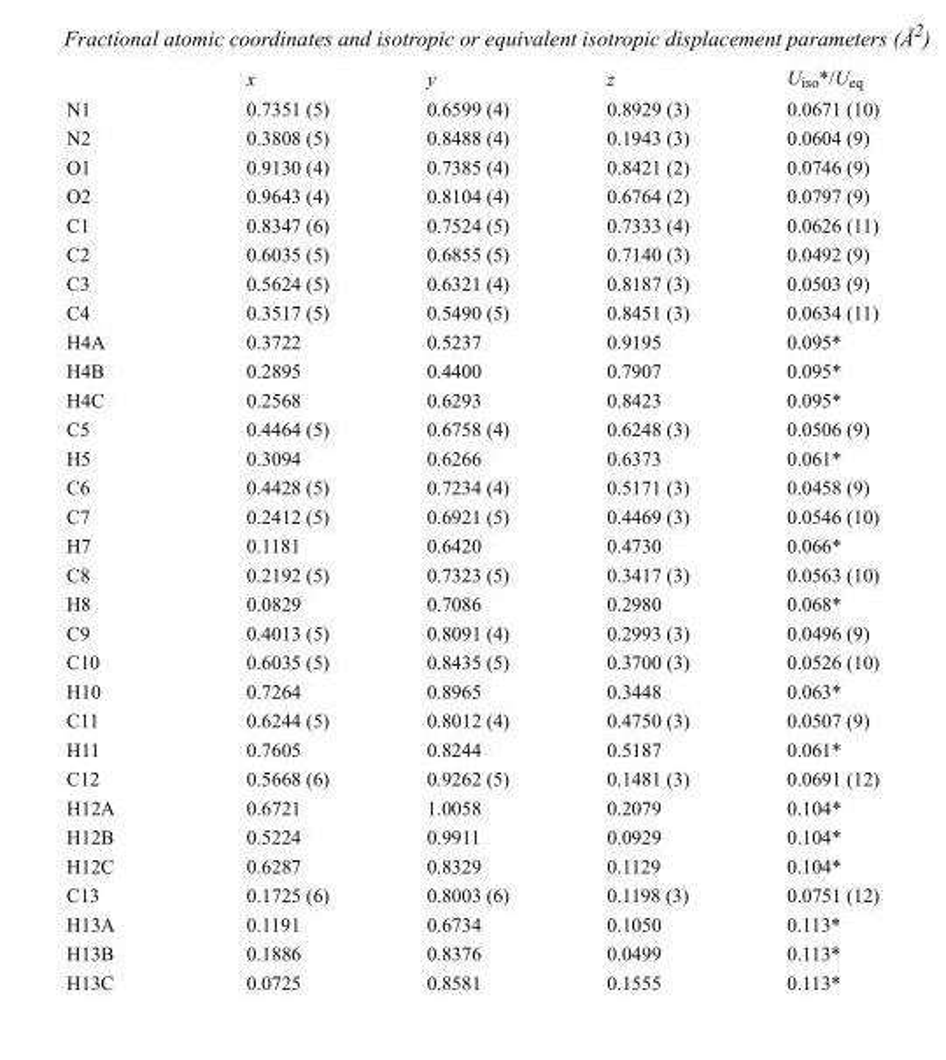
<table><thead><tr><td></td><td>x</td><td>y</td><td>z</td><td>U<sub>iso</sub>*/U<sub>eq</sub></td></tr></thead><tbody><tr><td>N1</td><td>0.7351 (5)</td><td>0.6599 (4)</td><td>0.8929 (3)</td><td>0.0671 (10)</td></tr><tr><td>N2</td><td>0.3808 (5)</td><td>0.8488 (4)</td><td>0.1943 (3)</td><td>0.0604 (9)</td></tr><tr><td>O1</td><td>0.9130 (4)</td><td>0.7385 (4)</td><td>0.8421 (2)</td><td>0.0746 (9)</td></tr><tr><td>O2</td><td>0.9643 (4)</td><td>0.8104 (4)</td><td>0.6764 (2)</td><td>0.0797 (9)</td></tr><tr><td>C1</td><td>0.8347 (6)</td><td>0.7524 (5)</td><td>0.7333 (4)</td><td>0.0626 (11)</td></tr><tr><td>C2</td><td>0.6035 (5)</td><td>0.6855 (5)</td><td>0.7140 (3)</td><td>0.0492 (9)</td></tr><tr><td>C3</td><td>0.5624 (5)</td><td>0.6321 (4)</td><td>0.8187 (3)</td><td>0.0503 (9)</td></tr><tr><td>C4</td><td>0.3517 (5)</td><td>0.5490 (5)</td><td>0.8451 (3)</td><td>0.0634 (11)</td></tr><tr><td>H4A</td><td>0.3722</td><td>0.5237</td><td>0.9195</td><td>0.095*</td></tr><tr><td>H4B</td><td>0.2895</td><td>0.4400</td><td>0.7907</td><td>0.095*</td></tr><tr><td>H4C</td><td>0.2568</td><td>0.6293</td><td>0.8423</td><td>0.095*</td></tr><tr><td>C5</td><td>0.4464 (5)</td><td>0.6758 (4)</td><td>0.6248 (3)</td><td>0.0506 (9)</td></tr><tr><td>H5</td><td>0.3094</td><td>0.6266</td><td>0.6373</td><td>0.061*</td></tr><tr><td>C6</td><td>0.4428 (5)</td><td>0.7234 (4)</td><td>0.5171 (3)</td><td>0.0458 (9)</td></tr><tr><td>C7</td><td>0.2412 (5)</td><td>0.6921 (5)</td><td>0.4469 (3)</td><td>0.0546 (10)</td></tr><tr><td>H7</td><td>0.1181</td><td>0.6420</td><td>0.4730</td><td>0.066*</td></tr><tr><td>C8</td><td>0.2192 (5)</td><td>0.7323 (5)</td><td>0.3417 (3)</td><td>0.0563 (10)</td></tr><tr><td>H8</td><td>0.0829</td><td>0.7086</td><td>0.2980</td><td>0.068*</td></tr><tr><td>C9</td><td>0.4013 (5)</td><td>0.8091 (4)</td><td>0.2993 (3)</td><td>0.0496 (9)</td></tr><tr><td>C10</td><td>0.6035 (5)</td><td>0.8435 (5)</td><td>0.3700 (3)</td><td>0.0526 (10)</td></tr><tr><td>H10</td><td>0.7264</td><td>0.8965</td><td>0.3448</td><td>0.063*</td></tr><tr><td>C11</td><td>0.6244 (5)</td><td>0.8012 (4)</td><td>0.4750 (3)</td><td>0.0507 (9)</td></tr><tr><td>H11</td><td>0.7605</td><td>0.8244</td><td>0.5187</td><td>0.061*</td></tr><tr><td>C12</td><td>0.5668 (6)</td><td>0.9262 (5)</td><td>0.1481 (3)</td><td>0.0691 (12)</td></tr><tr><td>H12A</td><td>0.6721</td><td>1.0058</td><td>0.2079</td><td>0.104*</td></tr><tr><td>H12B</td><td>0.5224</td><td>0.9911</td><td>0.0929</td><td>0.104*</td></tr><tr><td>H12C</td><td>0.6287</td><td>0.8329</td><td>0.1129</td><td>0.104*</td></tr><tr><td>C13</td><td>0.1725 (6)</td><td>0.8003 (6)</td><td>0.1198 (3)</td><td>0.0751 (12)</td></tr><tr><td>H13A</td><td>0.1191</td><td>0.6734</td><td>0.1050</td><td>0.113*</td></tr><tr><td>H13B</td><td>0.1886</td><td>0.8376</td><td>0.0499</td><td>0.113*</td></tr><tr><td>H13C</td><td>0.0725</td><td>0.8581</td><td>0.1555</td><td>0.113*</td></tr></tbody></table>